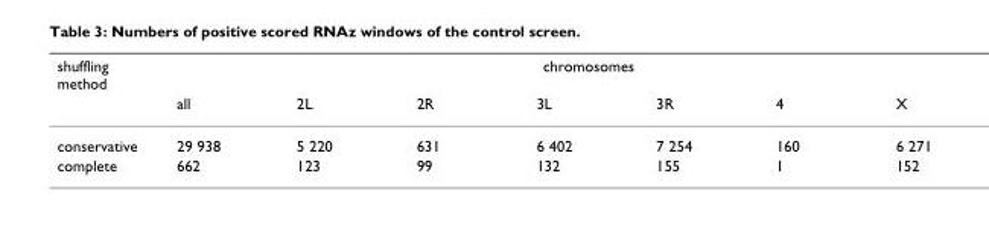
<table><thead><tr><td rowspan="2">shuffling method</td><td colspan="7">chromosomes</td></tr><tr><td>all</td><td>2L</td><td>2R</td><td>3L</td><td>3R</td><td>4</td><td>X</td></tr></thead><tbody><tr><td>conservative</td><td>29 938</td><td>5 220</td><td>631</td><td>6 402</td><td>7 254</td><td>160</td><td>6 271</td></tr><tr><td>complete</td><td>662</td><td>123</td><td>99</td><td>132</td><td>155</td><td>1</td><td>152</td></tr></tbody></table>